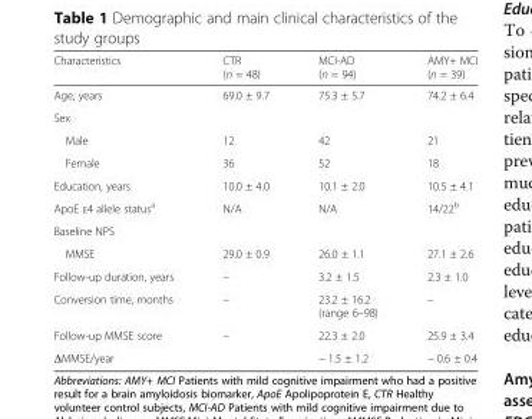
<table><thead><tr><td>Characteristics</td><td>CTR (n = 48)</td><td>MCI-AD (n = 94)</td><td>AMY+ MCI (n = 39)</td></tr></thead><tbody><tr><td>Age, years</td><td>69.0 ± 9.7</td><td>75.3 ± 5.7</td><td>74.2 ± 6.4</td></tr><tr><td colspan="4">Sex</td></tr><tr><td>Male</td><td>12</td><td>42</td><td>21</td></tr><tr><td>Female</td><td>36</td><td>52</td><td>18</td></tr><tr><td>Education, years</td><td>10.0 ± 4.0</td><td>10.1 ± 2.0</td><td>10.5 ± 4.1</td></tr><tr><td>ApoE ε4 allele status<sup>a</sup></td><td>N/A</td><td>N/A</td><td>14/22<sup>b</sup></td></tr><tr><td colspan="4">Baseline NPS</td></tr><tr><td>MMSE</td><td>29.0 ± 0.9</td><td>26.0 ± 1.1</td><td>27.1 ± 2.6</td></tr><tr><td>Follow-up duration, years</td><td>–</td><td>3.2 ± 1.5</td><td>2.3 ± 1.0</td></tr><tr><td>Conversion time, months</td><td>–</td><td>23.2 ± 16.2 (range 6–98)</td><td>–</td></tr><tr><td>Follow-up MMSE score</td><td>–</td><td>22.3 ± 2.0</td><td>25.9 ± 3.4</td></tr><tr><td>ΔMMSE/year</td><td></td><td>− 1.5 ± 1.2</td><td>− 0.6 ± 0.4</td></tr></tbody></table>